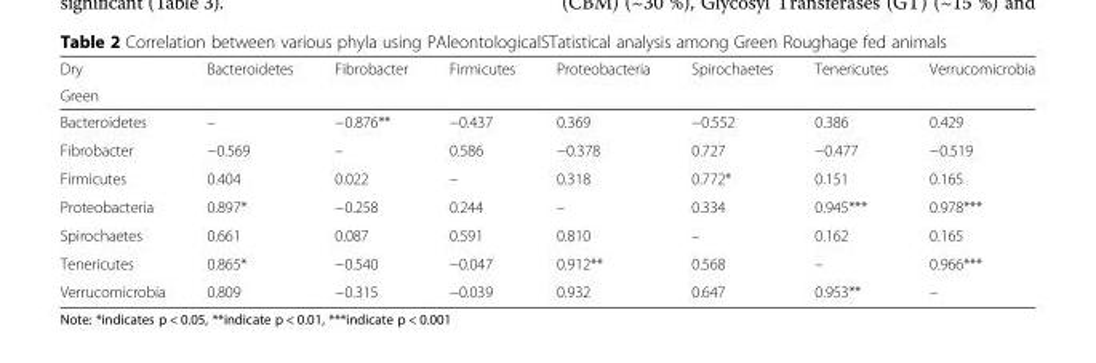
<table><thead><tr><td rowspan="2">Dry Green</td><td rowspan="2">Bacteroidetes</td><td rowspan="2">Fibrobacter</td><td rowspan="2">Firmicutes</td><td rowspan="2">Proteobacteria</td><td rowspan="2">Spirochaetes</td><td rowspan="2">Tenericutes</td><td rowspan="2">Verrucomicrobia</td></tr><tr></tr></thead><tbody><tr><td>Bacteroidetes</td><td>–</td><td>−0.876**</td><td>−0.437</td><td>0.369</td><td>−0.552</td><td>0.386</td><td>0.429</td></tr><tr><td>Fibrobacter</td><td>−0.569</td><td>–</td><td>0.586</td><td>−0.378</td><td>0.727</td><td>−0.477</td><td>−0.519</td></tr><tr><td>Firmicutes</td><td>0.404</td><td>0.022</td><td>–</td><td>0.318</td><td>0.772*</td><td>0.151</td><td>0.165</td></tr><tr><td>Proteobacteria</td><td>0.897*</td><td>−0.258</td><td>0.244</td><td>–</td><td>0.334</td><td>0.945***</td><td>0.978***</td></tr><tr><td>Spirochaetes</td><td>0.661</td><td>0.087</td><td>0.591</td><td>0.810</td><td>–</td><td>0.162</td><td>0.165</td></tr><tr><td>Tenericutes</td><td>0.865*</td><td>−0.540</td><td>−0.047</td><td>0.912**</td><td>0.568</td><td>–</td><td>0.966***</td></tr><tr><td>Verrucomicrobia</td><td>0.809</td><td>−0.315</td><td>−0.039</td><td>0.932</td><td>0.647</td><td>0.953**</td><td>–</td></tr></tbody></table>